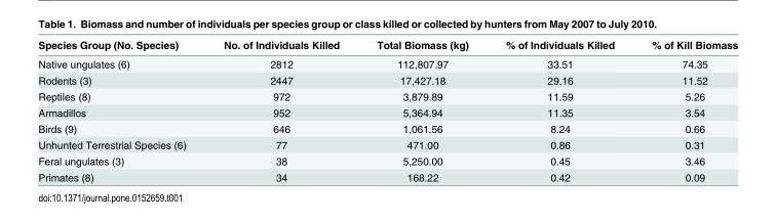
<table><thead><tr><td>Species Group (No. Species)</td><td>No. of Individuals Killed</td><td>Total Biomass (kg)</td><td>% of Individuals Killed</td><td>% of Kill Biomass</td></tr></thead><tbody><tr><td>Native ungulates (6)</td><td>2812</td><td>112,807.97</td><td>33.51</td><td>74.35</td></tr><tr><td>Rodents (3)</td><td>2447</td><td>17,427.18</td><td>29.16</td><td>11.52</td></tr><tr><td>Reptiles (8)</td><td>972</td><td>3,879.89</td><td>11.59</td><td>5.26</td></tr><tr><td>Armadillos</td><td>952</td><td>5,364.94</td><td>11.35</td><td>3.54</td></tr><tr><td>Birds (9)</td><td>646</td><td>1,061.56</td><td>8.24</td><td>0.66</td></tr><tr><td>Unhunted Terrestrial Species (6)</td><td>77</td><td>471.00</td><td>0.86</td><td>0.31</td></tr><tr><td>Feral ungulates (3)</td><td>38</td><td>5,250.00</td><td>0.45</td><td>3.46</td></tr><tr><td>Primates (8)</td><td>34</td><td>168.22</td><td>0.42</td><td>0.09</td></tr></tbody></table>